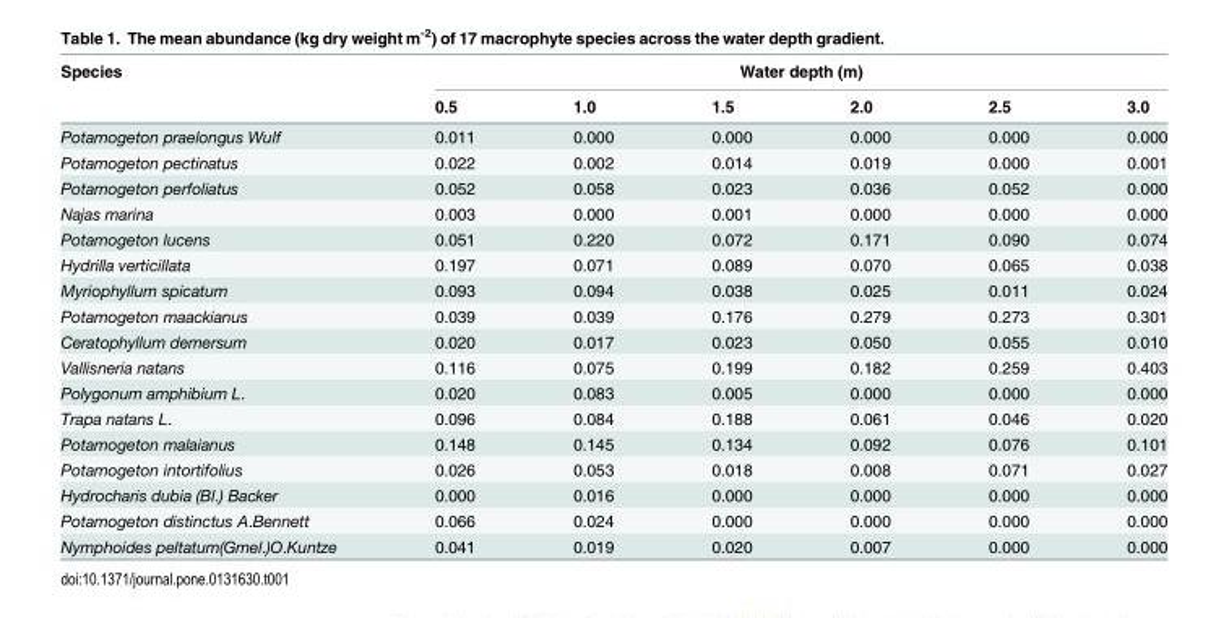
<table><thead><tr><td rowspan="2">Species</td><td colspan="6">Water depth (m)</td></tr><tr><td>0.5</td><td>1.0</td><td>1.5</td><td>2.0</td><td>2.5</td><td>3.0</td></tr></thead><tbody><tr><td>Potamogeton praelongus Wulf</td><td>0.011</td><td>0.000</td><td>0.000</td><td>0.000</td><td>0.000</td><td>0.000</td></tr><tr><td>Potamogeton pectinatus</td><td>0.022</td><td>0.002</td><td>0.014</td><td>0.019</td><td>0.000</td><td>0.001</td></tr><tr><td>Potamogeton perfoliatus</td><td>0.052</td><td>0.058</td><td>0.023</td><td>0.036</td><td>0.052</td><td>0.000</td></tr><tr><td>Najas marina</td><td>0.003</td><td>0.000</td><td>0.001</td><td>0.000</td><td>0.000</td><td>0.000</td></tr><tr><td>Potamogeton lucens</td><td>0.051</td><td>0.220</td><td>0.072</td><td>0.171</td><td>0.090</td><td>0.074</td></tr><tr><td>Hydrilla verticillata</td><td>0.197</td><td>0.071</td><td>0.089</td><td>0.070</td><td>0.065</td><td>0.038</td></tr><tr><td>Myriophyllum spicatum</td><td>0.093</td><td>0.094</td><td>0.038</td><td>0.025</td><td>0.011</td><td>0.024</td></tr><tr><td>Potamogeton maackianus</td><td>0.039</td><td>0.039</td><td>0.176</td><td>0.279</td><td>0.273</td><td>0.301</td></tr><tr><td>Ceratophyllum demersum</td><td>0.020</td><td>0.017</td><td>0.023</td><td>0.050</td><td>0.055</td><td>0.010</td></tr><tr><td>Vallisneria natans</td><td>0.116</td><td>0.075</td><td>0.199</td><td>0.182</td><td>0.259</td><td>0.403</td></tr><tr><td>Polygonum amphibium L.</td><td>0.020</td><td>0.083</td><td>0.005</td><td>0.000</td><td>0.000</td><td>0.000</td></tr><tr><td>Trapa natans L.</td><td>0.096</td><td>0.084</td><td>0.188</td><td>0.061</td><td>0.046</td><td>0.020</td></tr><tr><td>Potamogeton malaianus</td><td>0.148</td><td>0.145</td><td>0.134</td><td>0.092</td><td>0.076</td><td>0.101</td></tr><tr><td>Potamogeton intortifolius</td><td>0.026</td><td>0.053</td><td>0.018</td><td>0.008</td><td>0.071</td><td>0.027</td></tr><tr><td>Hydrocharis dubia (Bl.) Backer</td><td>0.000</td><td>0.016</td><td>0.000</td><td>0.000</td><td>0.000</td><td>0.000</td></tr><tr><td>Potamogeton distinctus A.Bennett</td><td>0.066</td><td>0.024</td><td>0.000</td><td>0.000</td><td>0.000</td><td>0.000</td></tr><tr><td>Nymphoides peltatum(Gmel.)O.Kuntze</td><td>0.041</td><td>0.019</td><td>0.020</td><td>0.007</td><td>0.000</td><td>0.000</td></tr></tbody></table>